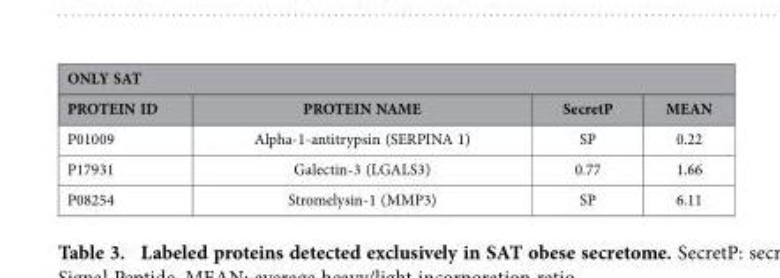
<table><thead><tr><td colspan="4">ONLY SAT</td></tr><tr><td>PROTEIN ID</td><td>PROTEIN NAME</td><td>SecretP</td><td>MEAN</td></tr></thead><tbody><tr><td>P01009</td><td>Alpha-1-antitrypsin (SERPINA 1)</td><td>SP</td><td>0.22</td></tr><tr><td>P17931</td><td>Galectin-3 (LGALS3)</td><td>0.77</td><td>1.66</td></tr><tr><td>P08254</td><td>Stromelysin-1 (MMP3)</td><td>SP</td><td>6.11</td></tr></tbody></table>